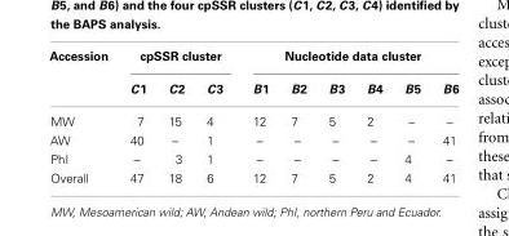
<table><thead><tr><td rowspan="2">Accession</td><td colspan="3">cpSSR cluster</td><td colspan="6">Nucleotide data cluster</td></tr><tr><td>C1</td><td>C2</td><td>C3</td><td>B1</td><td>B2</td><td>B3</td><td>B4</td><td>B5</td><td>B6</td></tr></thead><tbody><tr><td>MW</td><td>7</td><td>15</td><td>4</td><td>12</td><td>7</td><td>5</td><td>2</td><td>–</td><td>–</td></tr><tr><td>AW</td><td>40</td><td>–</td><td>1</td><td>–</td><td>–</td><td>–</td><td>–</td><td>–</td><td>41</td></tr><tr><td>PhI</td><td>–</td><td>3</td><td>1</td><td>–</td><td>–</td><td>–</td><td>–</td><td>4</td><td>–</td></tr><tr><td>Overall</td><td>47</td><td>18</td><td>6</td><td>12</td><td>7</td><td>5</td><td>2</td><td>4</td><td>41</td></tr></tbody></table>